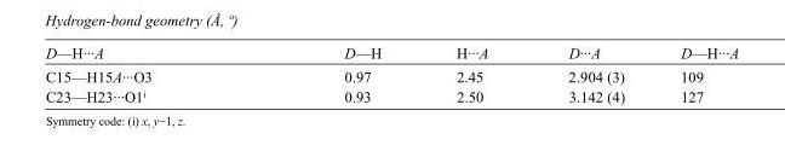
<table><tbody><tr><td>D—H···A</td><td>D—H</td><td>H···A</td><td>D···A</td><td>D—H···A</td></tr><tr><td>C15—H15A···O3</td><td>0.97</td><td>2.45</td><td>2.904 (3)</td><td>109</td></tr><tr><td>C23—H23···O1<sup>i</sup></td><td>0.93</td><td>2.50</td><td>3.142 (4)</td><td>127</td></tr></tbody></table>